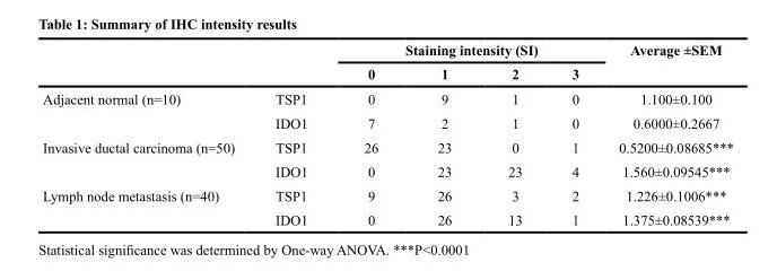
<table><thead><tr><td rowspan="2"></td><td rowspan="2"></td><td colspan="4">Staining intensity (SI)</td><td rowspan="2">Average ±SEM</td></tr><tr><td>0</td><td>1</td><td>2</td><td>3</td></tr></thead><tbody><tr><td rowspan="2">Adjacent normal (n=10)</td><td>TSP1</td><td>0</td><td>9</td><td>1</td><td>0</td><td>1.100±0.100</td></tr><tr><td>IDO1</td><td>7</td><td>2</td><td>1</td><td>0</td><td>0.6000±0.2667</td></tr><tr><td rowspan="2">Invasive ductal carcinoma (n=50)</td><td>TSP1</td><td>26</td><td>23</td><td>0</td><td>1</td><td>0.5200±0.08685***</td></tr><tr><td>IDO1</td><td>0</td><td>23</td><td>23</td><td>4</td><td>1.560±0.09545***</td></tr><tr><td rowspan="2">Lymph node metastasis (n=40)</td><td>TSP1</td><td>9</td><td>26</td><td>3</td><td>2</td><td>1.226±0.1006***</td></tr><tr><td>IDO1</td><td>0</td><td>26</td><td>13</td><td>1</td><td>1.375±0.08539***</td></tr></tbody></table>